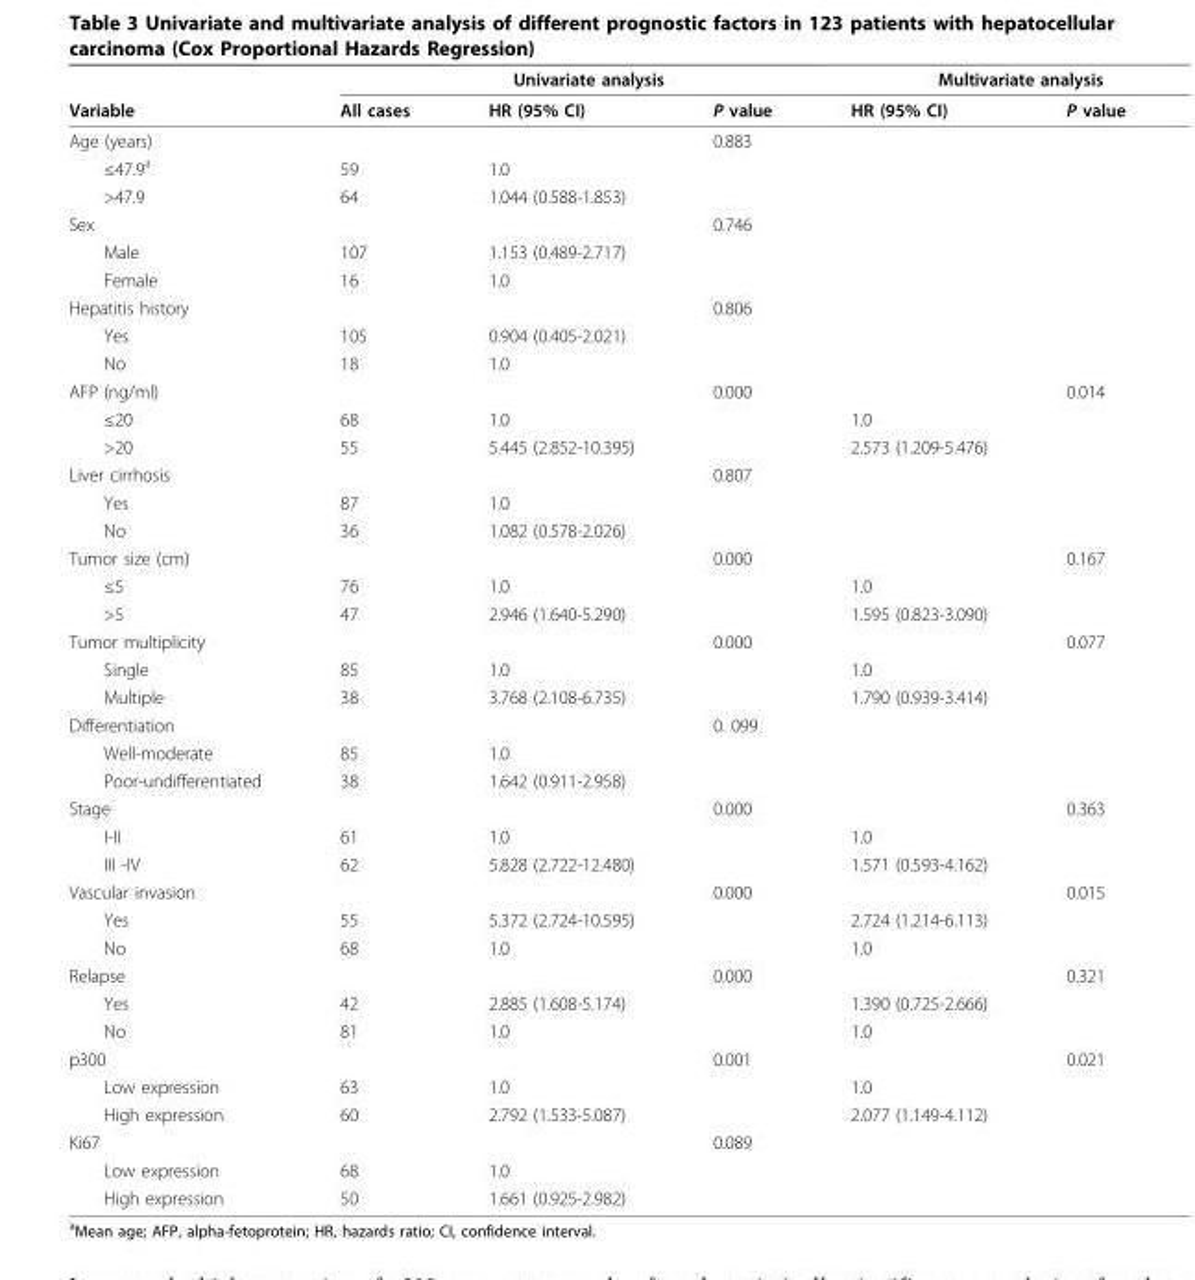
<table><thead><tr><td rowspan="2">Variable</td><td colspan="3">Univariate analysis</td><td colspan="2">Multivariate analysis</td></tr><tr><td>All cases</td><td>HR (95% CI)</td><td>P value</td><td>HR (95% CI)</td><td>P value</td></tr></thead><tbody><tr><td>Age (years)</td><td></td><td></td><td>0.883</td><td></td><td></td></tr><tr><td>≤47.9<sup>a</sup></td><td>59</td><td>1.0</td><td></td><td></td><td></td></tr><tr><td>&gt;47.9</td><td>64</td><td>1.044 (0.588-1.853)</td><td></td><td></td><td></td></tr><tr><td>Sex</td><td></td><td></td><td>0.746</td><td></td><td></td></tr><tr><td>Male</td><td>107</td><td>1.153 (0.489-2.717)</td><td></td><td></td><td></td></tr><tr><td>Female</td><td>16</td><td>1.0</td><td></td><td></td><td></td></tr><tr><td>Hepatitis history</td><td></td><td></td><td>0.806</td><td></td><td></td></tr><tr><td>Yes</td><td>105</td><td>0.904 (0.405-2.021)</td><td></td><td></td><td></td></tr><tr><td>No</td><td>18</td><td>1.0</td><td></td><td></td><td></td></tr><tr><td>AFP (ng/ml)</td><td></td><td></td><td>0.000</td><td></td><td>0.014</td></tr><tr><td>≤20</td><td>68</td><td>1.0</td><td></td><td>1.0</td><td></td></tr><tr><td>&gt;20</td><td>55</td><td>5.445 (2.852-10.395)</td><td></td><td>2.573 (1.209-5.476)</td><td></td></tr><tr><td>Liver cirrhosis</td><td></td><td></td><td>0.807</td><td></td><td></td></tr><tr><td>Yes</td><td>87</td><td>1.0</td><td></td><td></td><td></td></tr><tr><td>No</td><td>36</td><td>1.082 (0.578-2.026)</td><td></td><td></td><td></td></tr><tr><td>Tumor size (cm)</td><td></td><td></td><td>0.000</td><td></td><td>0.167</td></tr><tr><td>≤5</td><td>76</td><td>1.0</td><td></td><td>1.0</td><td></td></tr><tr><td>&gt;5</td><td>47</td><td>2.946 (1.640-5.290)</td><td></td><td>1.595 (0.823-3.090)</td><td></td></tr><tr><td>Tumor multiplicity</td><td></td><td></td><td>0.000</td><td></td><td>0.077</td></tr><tr><td>Single</td><td>85</td><td>1.0</td><td></td><td>1.0</td><td></td></tr><tr><td>Multiple</td><td>38</td><td>3.768 (2.108-6.735)</td><td></td><td>1.790 (0.939-3.414)</td><td></td></tr><tr><td>Differentiation</td><td></td><td></td><td>0. 099</td><td></td><td></td></tr><tr><td>Well-moderate</td><td>85</td><td>1.0</td><td></td><td></td><td></td></tr><tr><td>Poor-undifferentiated</td><td>38</td><td>1.642 (0.911-2.958)</td><td></td><td></td><td></td></tr><tr><td>Stage</td><td></td><td></td><td>0.000</td><td></td><td>0.363</td></tr><tr><td>I-II</td><td>61</td><td>1.0</td><td></td><td>1.0</td><td></td></tr><tr><td>III -IV</td><td>62</td><td>5.828 (2.722-12.480)</td><td></td><td>1.571 (0.593-4.162)</td><td></td></tr><tr><td>Vascular invasion</td><td></td><td></td><td>0.000</td><td></td><td>0.015</td></tr><tr><td>Yes</td><td>55</td><td>5.372 (2.724-10.595)</td><td></td><td>2.724 (1.214-6.113)</td><td></td></tr><tr><td>No</td><td>68</td><td>1.0</td><td></td><td>1.0</td><td></td></tr><tr><td>Relapse</td><td></td><td></td><td>0.000</td><td></td><td>0.321</td></tr><tr><td>Yes</td><td>42</td><td>2.885 (1.608-5.174)</td><td></td><td>1.390 (0.725-2.666)</td><td></td></tr><tr><td>No</td><td>81</td><td>1.0</td><td></td><td>1.0</td><td></td></tr><tr><td>p300</td><td></td><td></td><td>0.001</td><td></td><td>0.021</td></tr><tr><td>Low expression</td><td>63</td><td>1.0</td><td></td><td>1.0</td><td></td></tr><tr><td>High expression</td><td>60</td><td>2.792 (1.533-5.087)</td><td></td><td>2.077 (1.149-4.112)</td><td></td></tr><tr><td>Ki67</td><td></td><td></td><td>0.089</td><td></td><td></td></tr><tr><td>Low expression</td><td>68</td><td>1.0</td><td></td><td></td><td></td></tr><tr><td>High expression</td><td>50</td><td>1.661 (0.925-2.982)</td><td></td><td></td><td></td></tr></tbody></table>